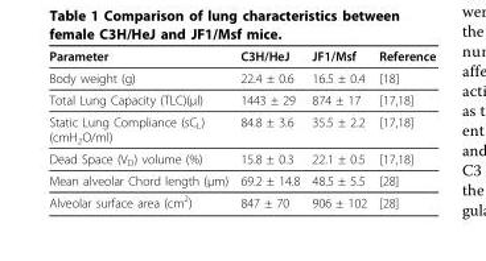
<table><thead><tr><td>Parameter</td><td>C3H/HeJ</td><td>JF1/Msf</td><td>Reference</td></tr></thead><tbody><tr><td>Body weight (g)</td><td>22.4 ± 0.6</td><td>16.5 ± 0.4</td><td>[18]</td></tr><tr><td>Total Lung Capacity (TLC)(μl)</td><td>1443 ± 29</td><td>874 ± 17</td><td>[17,18]</td></tr><tr><td>Static Lung Compliance (sC<sub>L</sub>) (cmH<sub>2</sub>O/ml)</td><td>84.8 ± 3.6</td><td>35.5 ± 2.2</td><td>[17,18]</td></tr><tr><td>Dead Space (V<sub>D</sub>) volume (%)</td><td>15.8 ± 0.3</td><td>22.1 ± 0.5</td><td>[17,18]</td></tr><tr><td>Mean alveolar Chord length (μm)</td><td>69.2 ± 14.8</td><td>48.5 ± 5.5</td><td>[28]</td></tr><tr><td>Alveolar surface area (cm<sup>2</sup>)</td><td>847 ± 70</td><td>906 ± 102</td><td>[28]</td></tr></tbody></table>